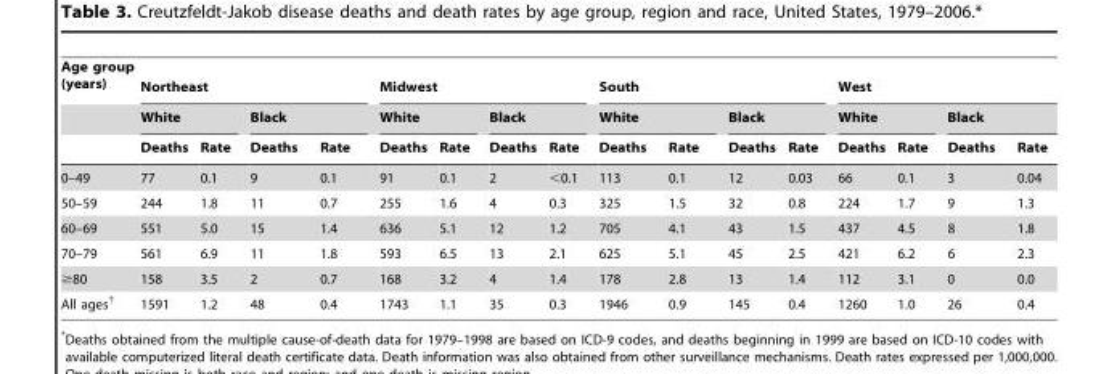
<table><thead><tr><td rowspan="3">Age group (years)</td><td colspan="4">Northeast</td><td colspan="4">Midwest</td><td colspan="4">South</td><td colspan="4">West</td></tr><tr><td colspan="2">White</td><td colspan="2">Black</td><td colspan="2">White</td><td colspan="2">Black</td><td colspan="2">White</td><td colspan="2">Black</td><td colspan="2">White</td><td colspan="2">Black</td></tr><tr><td>Deaths</td><td>Rate</td><td>Deaths</td><td>Rate</td><td>Deaths</td><td>Rate</td><td>Deaths</td><td>Rate</td><td>Deaths</td><td>Rate</td><td>Deaths</td><td>Rate</td><td>Deaths</td><td>Rate</td><td>Deaths</td><td>Rate</td></tr></thead><tbody><tr><td>0–49</td><td>77</td><td>0.1</td><td>9</td><td>0.1</td><td>91</td><td>0.1</td><td>2</td><td>&lt;0.1</td><td>113</td><td>0.1</td><td>12</td><td>0.03</td><td>66</td><td>0.1</td><td>3</td><td>0.04</td></tr><tr><td>50–59</td><td>244</td><td>1.8</td><td>11</td><td>0.7</td><td>255</td><td>1.6</td><td>4</td><td>0.3</td><td>325</td><td>1.5</td><td>32</td><td>0.8</td><td>224</td><td>1.7</td><td>9</td><td>1.3</td></tr><tr><td>60–69</td><td>551</td><td>5.0</td><td>15</td><td>1.4</td><td>636</td><td>5.1</td><td>12</td><td>1.2</td><td>705</td><td>4.1</td><td>43</td><td>1.5</td><td>437</td><td>4.5</td><td>8</td><td>1.8</td></tr><tr><td>70–79</td><td>561</td><td>6.9</td><td>11</td><td>1.8</td><td>593</td><td>6.5</td><td>13</td><td>2.1</td><td>625</td><td>5.1</td><td>45</td><td>2.5</td><td>421</td><td>6.2</td><td>6</td><td>2.3</td></tr><tr><td>≥80</td><td>158</td><td>3.5</td><td>2</td><td>0.7</td><td>168</td><td>3.2</td><td>4</td><td>1.4</td><td>178</td><td>2.8</td><td>13</td><td>1.4</td><td>112</td><td>3.1</td><td>0</td><td>0.0</td></tr><tr><td>All ages†</td><td>1591</td><td>1.2</td><td>48</td><td>0.4</td><td>1743</td><td>1.1</td><td>35</td><td>0.3</td><td>1946</td><td>0.9</td><td>145</td><td>0.4</td><td>1260</td><td>1.0</td><td>26</td><td>0.4</td></tr></tbody></table>